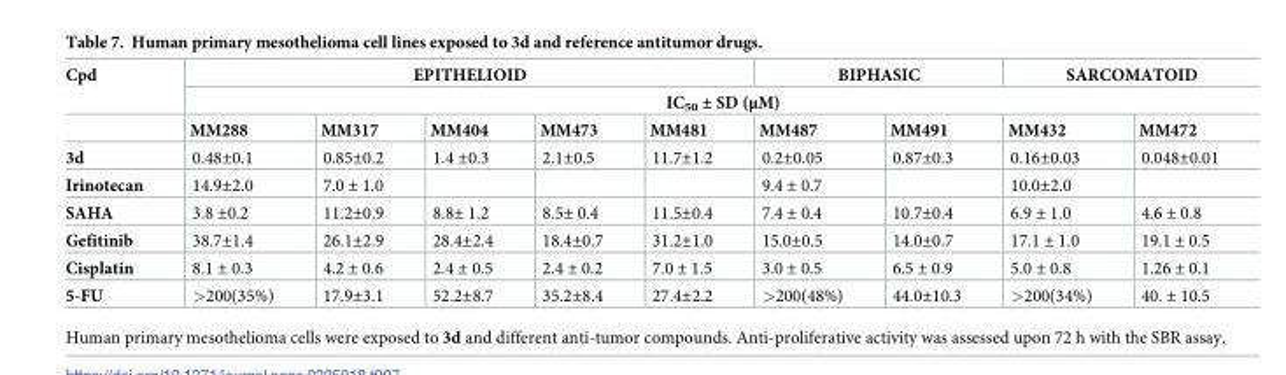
<table><thead><tr><td rowspan="3">Cpd</td><td colspan="5">EPITHELIOID</td><td colspan="2">BIPHASIC</td><td colspan="2">SARCOMATOID</td></tr><tr><td colspan="9">IC<sub>50</sub> ± SD (μM)</td></tr><tr><td>MM288</td><td>MM317</td><td>MM404</td><td>MM473</td><td>MM481</td><td>MM487</td><td>MM491</td><td>MM432</td><td>MM472</td></tr></thead><tbody><tr><td>3d</td><td>0.48±0.1</td><td>0.85±0.2</td><td>1.4 ±0.3</td><td>2.1±0.5</td><td>11.7±1.2</td><td>0.2±0.05</td><td>0.87±0.3</td><td>0.16±0.03</td><td>0.048±0.01</td></tr><tr><td>Irinotecan</td><td>14.9±2.0</td><td>7.0 ± 1.0</td><td></td><td></td><td></td><td>9.4 ± 0.7</td><td></td><td>10.0±2.0</td><td></td></tr><tr><td>SAHA</td><td>3.8 ±0.2</td><td>11.2±0.9</td><td>8.8± 1.2</td><td>8.5± 0.4</td><td>11.5±0.4</td><td>7.4 ± 0.4</td><td>10.7±0.4</td><td>6.9 ± 1.0</td><td>4.6 ± 0.8</td></tr><tr><td>Gefitinib</td><td>38.7±1.4</td><td>26.1±2.9</td><td>28.4±2.4</td><td>18.4±0.7</td><td>31.2±1.0</td><td>15.0±0.5</td><td>14.0±0.7</td><td>17.1 ± 1.0</td><td>19.1 ± 0.5</td></tr><tr><td>Cisplatin</td><td>8.1 ± 0.3</td><td>4.2 ± 0.6</td><td>2.4 ± 0.5</td><td>2.4 ± 0.2</td><td>7.0 ± 1.5</td><td>3.0 ± 0.5</td><td>6.5 ± 0.9</td><td>5.0 ± 0.8</td><td>1.26 ± 0.1</td></tr><tr><td>5-FU</td><td>&gt;200(35%)</td><td>17.9±3.1</td><td>52.2±8.7</td><td>35.2±8.4</td><td>27.4±2.2</td><td>&gt;200(48%)</td><td>44.0±10.3</td><td>&gt;200(34%)</td><td>40. ± 10.5</td></tr></tbody></table>